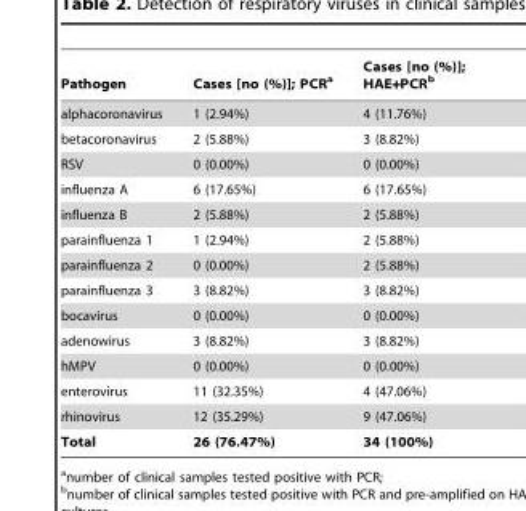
<table><thead><tr><td>Pathogen</td><td>Cases [no (%)]; PCR<sup>a</sup></td><td>Cases [no (%)]; HAE+PCR<sup>b</sup></td></tr></thead><tbody><tr><td>alphacoronavirus</td><td>1 (2.94%)</td><td>4 (11.76%)</td></tr><tr><td>betacoronavirus</td><td>2 (5.88%)</td><td>3 (8.82%)</td></tr><tr><td>RSV</td><td>0 (0.00%)</td><td>0 (0.00%)</td></tr><tr><td>influenza A</td><td>6 (17.65%)</td><td>6 (17.65%)</td></tr><tr><td>influenza B</td><td>2 (5.88%)</td><td>2 (5.88%)</td></tr><tr><td>parainfluenza 1</td><td>1 (2.94%)</td><td>2 (5.88%)</td></tr><tr><td>parainfluenza 2</td><td>0 (0.00%)</td><td>2 (5.88%)</td></tr><tr><td>parainfluenza 3</td><td>3 (8.82%)</td><td>3 (8.82%)</td></tr><tr><td>bocavirus</td><td>0 (0.00%)</td><td>0 (0.00%)</td></tr><tr><td>adenowirus</td><td>3 (8.82%)</td><td>3 (8.82%)</td></tr><tr><td>hMPV</td><td>0 (0.00%)</td><td>0 (0.00%)</td></tr><tr><td>enterovirus</td><td>11 (32.35%)</td><td>4 (47.06%)</td></tr><tr><td>rhinovirus</td><td>12 (35.29%)</td><td>9 (47.06%)</td></tr><tr><td>Total</td><td>26 (76.47%)</td><td>34 (100%)</td></tr></tbody></table>